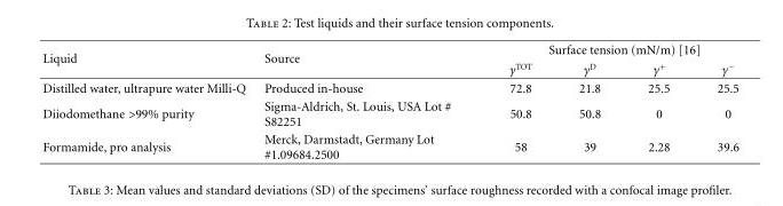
<table><thead><tr><td rowspan="2">Liquid</td><td rowspan="2">Source</td><td colspan="4">Surface tension (mN/m) [16]</td></tr><tr><td>γ<sup>TOT</sup></td><td>γ<sup>D</sup></td><td>γ<sup>+</sup></td><td>γ<sup>−</sup></td></tr></thead><tbody><tr><td>Distilled water, ultrapure water Milli-Q</td><td>Produced in-house</td><td>72.8</td><td>21.8</td><td>25.5</td><td>25.5</td></tr><tr><td>Diiodomethane &gt;99% purity</td><td>Sigma-Aldrich, St. Louis, USA Lot # S82251</td><td>50.8</td><td>50.8</td><td>0</td><td>0</td></tr><tr><td>Formamide, pro analysis</td><td>Merck, Darmstadt, Germany Lot #1.09684.2500</td><td>58</td><td>39</td><td>2.28</td><td>39.6</td></tr></tbody></table>